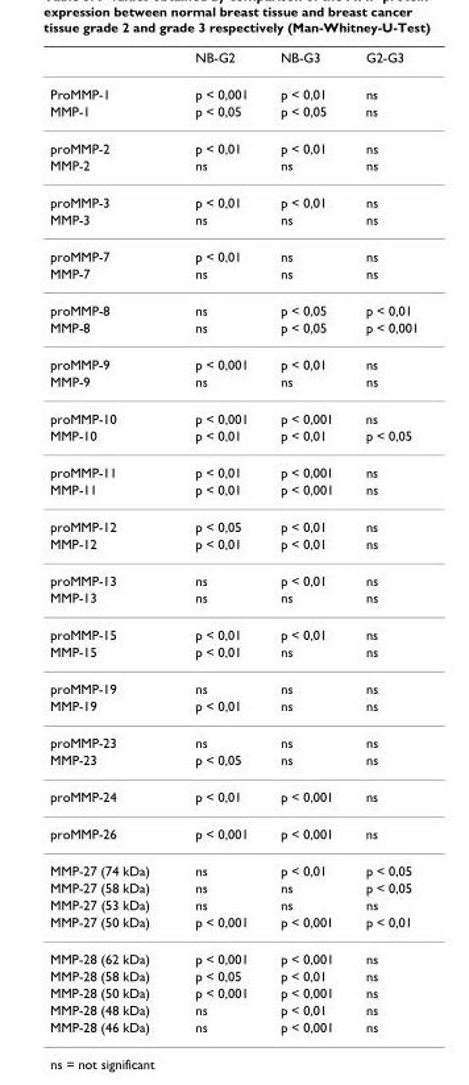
<table><thead><tr><td></td><td>NB-G2</td><td>NB-G3</td><td>G2-G3</td></tr></thead><tbody><tr><td>ProMMP-1</td><td>p &lt; 0,001</td><td>p &lt; 0,01</td><td>ns</td></tr><tr><td>MMP-1</td><td>p &lt; 0,05</td><td>p &lt; 0,05</td><td>ns</td></tr><tr><td>proMMP-2</td><td>p &lt; 0,01</td><td>p &lt; 0,01</td><td>ns</td></tr><tr><td>MMP-2</td><td>ns</td><td>ns</td><td>ns</td></tr><tr><td>proMMP-3</td><td>p &lt; 0,01</td><td>p &lt; 0,01</td><td>ns</td></tr><tr><td>MMP-3</td><td>ns</td><td>ns</td><td>ns</td></tr><tr><td>proMMP-7</td><td>p &lt; 0,01</td><td>ns</td><td>ns</td></tr><tr><td>MMP-7</td><td>ns</td><td>ns</td><td>ns</td></tr><tr><td>proMMP-8</td><td>ns</td><td>p &lt; 0,05</td><td>p &lt; 0,01</td></tr><tr><td>MMP-8</td><td>ns</td><td>p &lt; 0,05</td><td>p &lt; 0,001</td></tr><tr><td>proMMP-9</td><td>p &lt; 0,001</td><td>p &lt; 0,01</td><td>ns</td></tr><tr><td>MMP-9</td><td>ns</td><td>ns</td><td>ns</td></tr><tr><td>proMMP-10</td><td>p &lt; 0,001</td><td>p &lt; 0,001</td><td>ns</td></tr><tr><td>MMP-10</td><td>p &lt; 0,01</td><td>p &lt; 0,01</td><td>p &lt; 0,05</td></tr><tr><td>proMMP-11</td><td>p &lt; 0,01</td><td>p &lt; 0,001</td><td>ns</td></tr><tr><td>MMP-11</td><td>p &lt; 0,01</td><td>p &lt; 0,001</td><td>ns</td></tr><tr><td>proMMP-12</td><td>p &lt; 0,05</td><td>p &lt; 0,01</td><td>ns</td></tr><tr><td>MMP-12</td><td>p &lt; 0,01</td><td>p &lt; 0,01</td><td>ns</td></tr><tr><td>proMMP-13</td><td>ns</td><td>p &lt; 0,01</td><td>ns</td></tr><tr><td>MMP-13</td><td>ns</td><td>ns</td><td>ns</td></tr><tr><td>proMMP-15</td><td>p &lt; 0,01</td><td>p &lt; 0,01</td><td>ns</td></tr><tr><td>MMP-15</td><td>p &lt; 0,01</td><td>ns</td><td>ns</td></tr><tr><td>proMMP-19</td><td>ns</td><td>ns</td><td>ns</td></tr><tr><td>MMP-19</td><td>p &lt; 0,01</td><td>ns</td><td>ns</td></tr><tr><td>proMMP-23</td><td>ns</td><td>ns</td><td>ns</td></tr><tr><td>MMP-23</td><td>p &lt; 0,05</td><td>ns</td><td>ns</td></tr><tr><td>proMMP-24</td><td>p &lt; 0,01</td><td>p &lt; 0,001</td><td>ns</td></tr><tr><td>proMMP-26</td><td>p &lt; 0,001</td><td>p &lt; 0,001</td><td>ns</td></tr><tr><td>MMP-27 (74 kDa)</td><td>ns</td><td>p &lt; 0,01</td><td>p &lt; 0,05</td></tr><tr><td>MMP-27 (58 kDa)</td><td>ns</td><td>ns</td><td>p &lt; 0,05</td></tr><tr><td>MMP-27 (53 kDa)</td><td>ns</td><td>ns</td><td>ns</td></tr><tr><td>MMP-27 (50 kDa)</td><td>p &lt; 0,001</td><td>p &lt; 0,001</td><td>p &lt; 0,01</td></tr><tr><td>MMP-28 (62 kDa)</td><td>p &lt; 0,001</td><td>p &lt; 0,001</td><td>ns</td></tr><tr><td>MMP-28 (58 kDa)</td><td>p &lt; 0,05</td><td>p &lt; 0,01</td><td>ns</td></tr><tr><td>MMP-28 (50 kDa)</td><td>p &lt; 0,001</td><td>p &lt; 0,001</td><td>ns</td></tr><tr><td>MMP-28 (48 kDa)</td><td>ns</td><td>p &lt; 0,01</td><td>ns</td></tr><tr><td>MMP-28 (46 kDa)</td><td>ns</td><td>p &lt; 0,001</td><td>ns</td></tr></tbody></table>